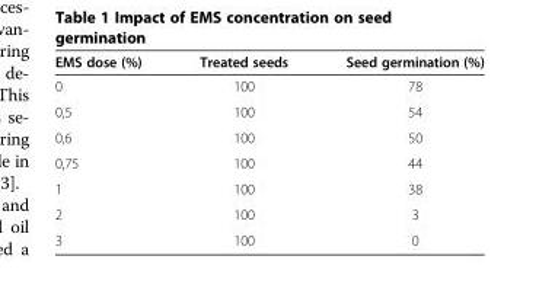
<table><thead><tr><td>EMS dose (%)</td><td>Treated seeds</td><td>Seed germination (%)</td></tr></thead><tbody><tr><td>0</td><td>100</td><td>78</td></tr><tr><td>0,5</td><td>100</td><td>54</td></tr><tr><td>0,6</td><td>100</td><td>50</td></tr><tr><td>0,75</td><td>100</td><td>44</td></tr><tr><td>1</td><td>100</td><td>38</td></tr><tr><td>2</td><td>100</td><td>3</td></tr><tr><td>3</td><td>100</td><td>0</td></tr></tbody></table>